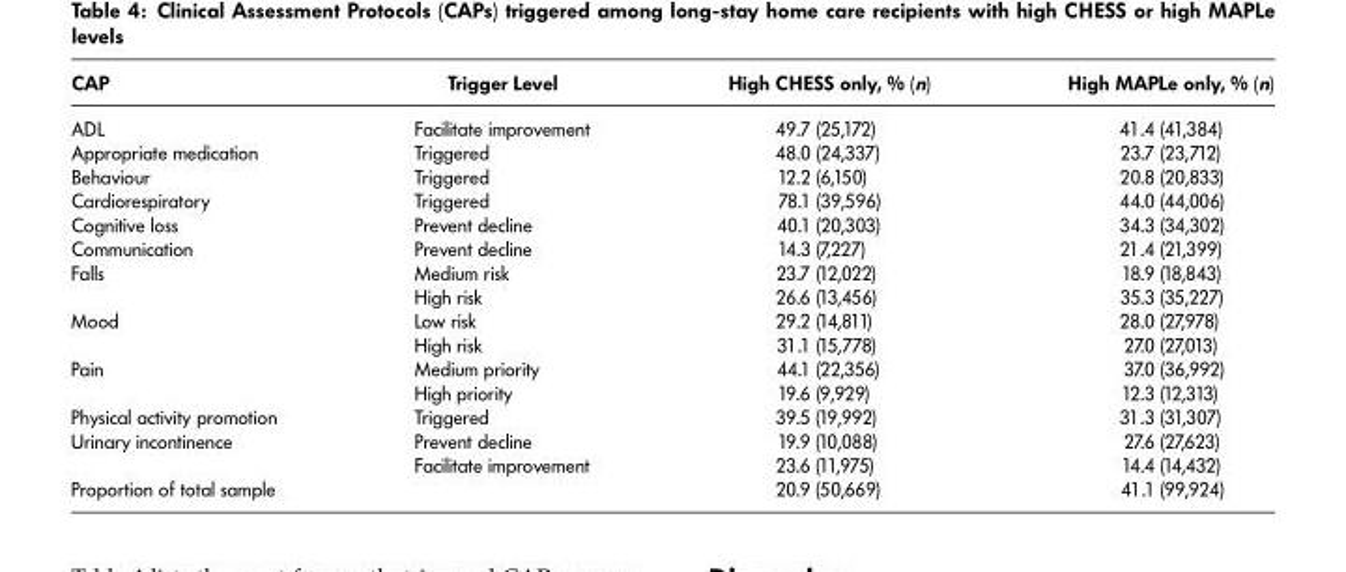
<table><thead><tr><td>CAP</td><td>Trigger Level</td><td>High CHESS only, % (n)</td><td>High MAPLe only, % (n)</td></tr></thead><tbody><tr><td>ADL</td><td>Facilitate improvement</td><td>49.7 (25,172)</td><td>41.4 (41,384)</td></tr><tr><td>Appropriate medication</td><td>Triggered</td><td>48.0 (24,337)</td><td>23.7 (23,712)</td></tr><tr><td>Behaviour</td><td>Triggered</td><td>12.2 (6,150)</td><td>20.8 (20,833)</td></tr><tr><td>Cardiorespiratory</td><td>Triggered</td><td>78.1 (39,596)</td><td>44.0 (44,006)</td></tr><tr><td>Cognitive loss</td><td>Prevent decline</td><td>40.1 (20,303)</td><td>34.3 (34,302)</td></tr><tr><td>Communication</td><td>Prevent decline</td><td>14.3 (7,227)</td><td>21.4 (21,399)</td></tr><tr><td rowspan="2">Falls</td><td>Medium risk</td><td>23.7 (12,022)</td><td>18.9 (18,843)</td></tr><tr><td>High risk</td><td>26.6 (13,456)</td><td>35.3 (35,227)</td></tr><tr><td rowspan="2">Mood</td><td>Low risk</td><td>29.2 (14,811)</td><td>28.0 (27,978)</td></tr><tr><td>High risk</td><td>31.1 (15,778)</td><td>27.0 (27,013)</td></tr><tr><td rowspan="2">Pain</td><td>Medium priority</td><td>44.1 (22,356)</td><td>37.0 (36,992)</td></tr><tr><td>High priority</td><td>19.6 (9,929)</td><td>12.3 (12,313)</td></tr><tr><td>Physical activity promotion</td><td>Triggered</td><td>39.5 (19,992)</td><td>31.3 (31,307)</td></tr><tr><td rowspan="2">Urinary incontinence</td><td>Prevent decline</td><td>19.9 (10,088)</td><td>27.6 (27,623)</td></tr><tr><td>Facilitate improvement</td><td>23.6 (11,975)</td><td>14.4 (14,432)</td></tr><tr><td colspan="2">Proportion of total sample</td><td>20.9 (50,669)</td><td>41.1 (99,924)</td></tr></tbody></table>